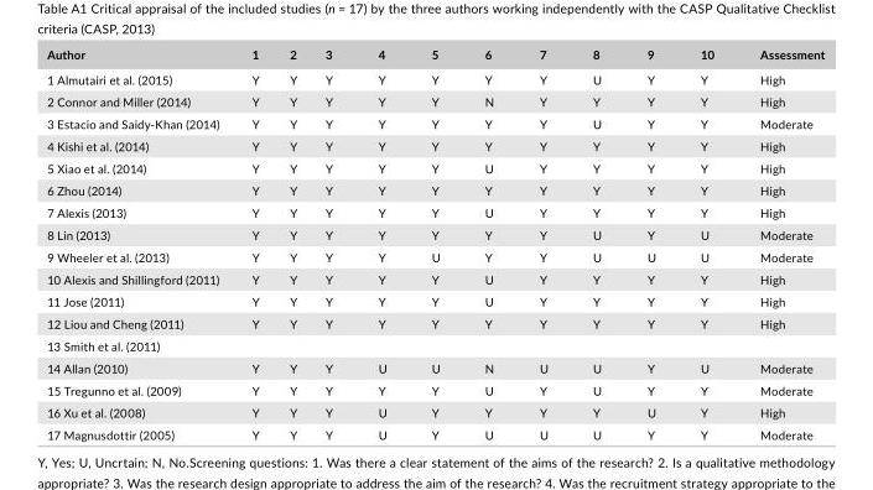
<table><thead><tr><td>Author</td><td>1</td><td>2</td><td>3</td><td>4</td><td>5</td><td>6</td><td>7</td><td>8</td><td>9</td><td>10</td><td>Assessment</td></tr></thead><tbody><tr><td>1 Almutairi et al. (2015)</td><td>Y</td><td>Y</td><td>Y</td><td>Y</td><td>Y</td><td>Y</td><td>Y</td><td>U</td><td>Y</td><td>Y</td><td>High</td></tr><tr><td>2 Connor and Miller (2014)</td><td>Y</td><td>Y</td><td>Y</td><td>Y</td><td>Y</td><td>N</td><td>Y</td><td>Y</td><td>Y</td><td>Y</td><td>High</td></tr><tr><td>3 Estacio and Saidy- Khan (2014)</td><td>Y</td><td>Y</td><td>Y</td><td>Y</td><td>Y</td><td>Y</td><td>Y</td><td>U</td><td>Y</td><td>Y</td><td>Moderate</td></tr><tr><td>4 Kishi et al. (2014)</td><td>Y</td><td>Y</td><td>Y</td><td>Y</td><td>Y</td><td>Y</td><td>Y</td><td>Y</td><td>Y</td><td>Y</td><td>High</td></tr><tr><td>5 Xiao et al. (2014)</td><td>Y</td><td>Y</td><td>Y</td><td>Y</td><td>Y</td><td>U</td><td>Y</td><td>Y</td><td>Y</td><td>Y</td><td>High</td></tr><tr><td>6 Zhou (2014)</td><td>Y</td><td>Y</td><td>Y</td><td>Y</td><td>Y</td><td>Y</td><td>Y</td><td>Y</td><td>Y</td><td>Y</td><td>High</td></tr><tr><td>7 Alexis (2013)</td><td>Y</td><td>Y</td><td>Y</td><td>Y</td><td>Y</td><td>U</td><td>Y</td><td>Y</td><td>Y</td><td>Y</td><td>High</td></tr><tr><td>8 Lin (2013)</td><td>Y</td><td>Y</td><td>Y</td><td>Y</td><td>Y</td><td>Y</td><td>Y</td><td>U</td><td>Y</td><td>U</td><td>Moderate</td></tr><tr><td>9 Wheeler et al. (2013)</td><td>Y</td><td>Y</td><td>Y</td><td>Y</td><td>U</td><td>Y</td><td>Y</td><td>U</td><td>U</td><td>U</td><td>Moderate</td></tr><tr><td>10 Alexis and Shillingford (2011)</td><td>Y</td><td>Y</td><td>Y</td><td>Y</td><td>Y</td><td>U</td><td>Y</td><td>Y</td><td>Y</td><td>Y</td><td>High</td></tr><tr><td>11 Jose (2011)</td><td>Y</td><td>Y</td><td>Y</td><td>Y</td><td>Y</td><td>U</td><td>Y</td><td>Y</td><td>Y</td><td>Y</td><td>High</td></tr><tr><td>12 Liou and Cheng (2011)</td><td>Y</td><td>Y</td><td>Y</td><td>Y</td><td>Y</td><td>Y</td><td>Y</td><td>Y</td><td>Y</td><td>Y</td><td>High</td></tr><tr><td colspan="12">13 Smith et al. (2011)</td></tr><tr><td>14 Allan (2010)</td><td>Y</td><td>Y</td><td>Y</td><td>U</td><td>U</td><td>N</td><td>U</td><td>U</td><td>Y</td><td>U</td><td>Moderate</td></tr><tr><td>15 Tregunno et al. (2009)</td><td>Y</td><td>Y</td><td>Y</td><td>Y</td><td>Y</td><td>U</td><td>Y</td><td>U</td><td>Y</td><td>Y</td><td>Moderate</td></tr><tr><td>16 Xu et al. (2008)</td><td>Y</td><td>Y</td><td>Y</td><td>U</td><td>Y</td><td>Y</td><td>Y</td><td>Y</td><td>U</td><td>Y</td><td>High</td></tr><tr><td>17 Magnusdottir (2005)</td><td>Y</td><td>Y</td><td>Y</td><td>U</td><td>Y</td><td>U</td><td>U</td><td>U</td><td>Y</td><td>Y</td><td>Moderate</td></tr></tbody></table>